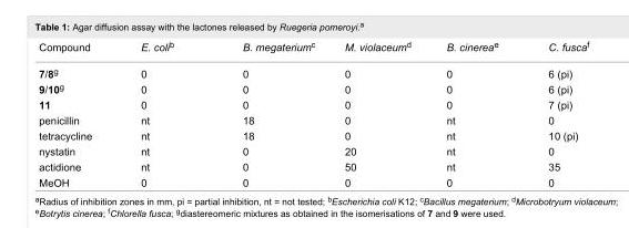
<table><tbody><tr><td>Compound</td><td>E. coli<sup>b</sup></td><td>B. megaterium<sup>c</sup></td><td>M. violaceum<sup>d</sup></td><td>B. cinerea<sup>e</sup></td><td>C. fusca<sup>f</sup></td></tr><tr><td>7/8<sup>g</sup></td><td>0</td><td>0</td><td>0</td><td>0</td><td>6 (pi)</td></tr><tr><td>9/10<sup>g</sup></td><td>0</td><td>0</td><td>0</td><td>0</td><td>6 (pi)</td></tr><tr><td>11</td><td>0</td><td>0</td><td>0</td><td>0</td><td>7 (pi)</td></tr><tr><td>penicillin</td><td>nt</td><td>18</td><td>0</td><td>nt</td><td>0</td></tr><tr><td>tetracycline</td><td>nt</td><td>18</td><td>0</td><td>nt</td><td>10 (pi)</td></tr><tr><td>nystatin</td><td>nt</td><td>0</td><td>20</td><td>nt</td><td>0</td></tr><tr><td>actidione</td><td>nt</td><td>0</td><td>50</td><td>nt</td><td>35</td></tr><tr><td>MeOH</td><td>0</td><td>0</td><td>0</td><td>0</td><td>0</td></tr></tbody></table>